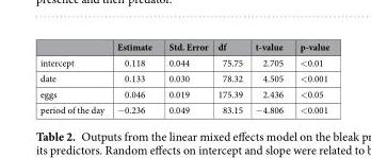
<table><thead><tr><td></td><td>Estimate</td><td>Std. Error</td><td>df</td><td>t-value</td><td>p-value</td></tr></thead><tbody><tr><td>intercept</td><td>0.118</td><td>0.044</td><td>75.75</td><td>2.705</td><td>&lt;0.01</td></tr><tr><td>date</td><td>0.133</td><td>0.030</td><td>78.32</td><td>4.505</td><td>&lt;0.001</td></tr><tr><td>eggs</td><td>0.046</td><td>0.019</td><td>175.39</td><td>2.436</td><td>&lt;0.05</td></tr><tr><td>period of the day</td><td>−0.236</td><td>0.049</td><td>83.15</td><td>−4.806</td><td>&lt;0.001</td></tr></tbody></table>